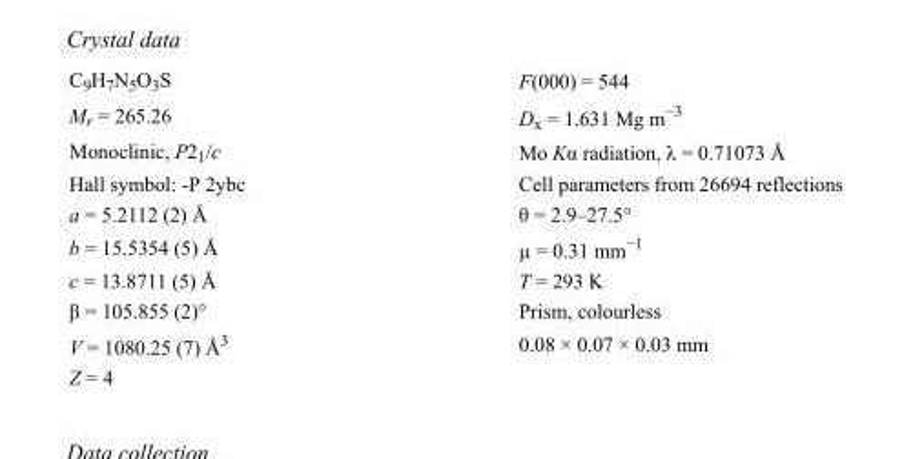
<table><tbody><tr><td>C<sub>9</sub>H<sub>7</sub>N<sub>5</sub>O<sub>3</sub>S</td><td>F(000) = 544</td></tr><tr><td>M<sub>r</sub> = 265.26</td><td>D<sub>x</sub> = 1.631 Mg m<sup>−3</sup></td></tr><tr><td>Monoclinic, P2<sub>1</sub>/c</td><td>Mo Kα radiation, λ = 0.71073 Å</td></tr><tr><td>Hall symbol: -P 2ybc</td><td>Cell parameters from 26694 reflections</td></tr><tr><td>a = 5.2112 (2) Å</td><td>θ = 2.9–27.5°</td></tr><tr><td>b = 15.5354 (5) Å</td><td>µ = 0.31 mm<sup>−1</sup></td></tr><tr><td>c = 13.8711 (5) Å</td><td>T = 293 K</td></tr><tr><td>β = 105.855 (2)°</td><td>Prism, colourless</td></tr><tr><td>V = 1080.25 (7) Å<sup>3</sup></td><td>0.08 × 0.07 × 0.03 mm</td></tr><tr><td>Z = 4</td><td></td></tr></tbody></table>